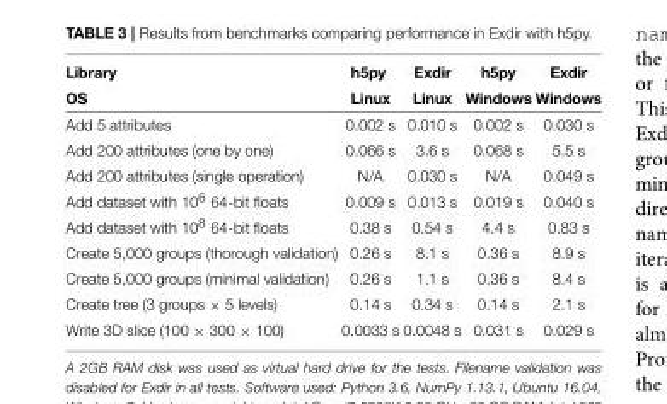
<table><thead><tr><td rowspan="2">Library OS</td><td rowspan="2">h5py Linux</td><td rowspan="2">Exdir Linux</td><td rowspan="2">h5py Windows</td><td rowspan="2">Exdir Windows</td></tr><tr></tr></thead><tbody><tr><td>Add 5 attributes</td><td>0.002 s</td><td>0.010 s</td><td>0.002 s</td><td>0.030 s</td></tr><tr><td>Add 200 attributes (one by one)</td><td>0.066 s</td><td>3.6 s</td><td>0.068 s</td><td>5.5 s</td></tr><tr><td>Add 200 attributes (single operation)</td><td>N/A</td><td>0.030 s</td><td>N/A</td><td>0.049 s</td></tr><tr><td>Add dataset with 10<sup>6</sup> 64-bit floats</td><td>0.009 s</td><td>0.013 s</td><td>0.019 s</td><td>0.040 s</td></tr><tr><td>Add dataset with 10<sup>8</sup> 64-bit floats</td><td>0.38 s</td><td>0.54 s</td><td>4.4 s</td><td>0.83 s</td></tr><tr><td>Create 5,000 groups (thorough validation)</td><td>0.26 s</td><td>8.1 s</td><td>0.36 s</td><td>8.9 s</td></tr><tr><td>Create 5,000 groups (minimal validation)</td><td>0.26 s</td><td>1.1 s</td><td>0.36 s</td><td>8.4 s</td></tr><tr><td>Create tree (3 groups × 5 levels)</td><td>0.14 s</td><td>0.34 s</td><td>0.14 s</td><td>2.1 s</td></tr><tr><td>Write 3D slice (100 × 300 × 100)</td><td>0.0033 s</td><td>0.0048 s</td><td>0.031 s</td><td>0.029 s</td></tr></tbody></table>